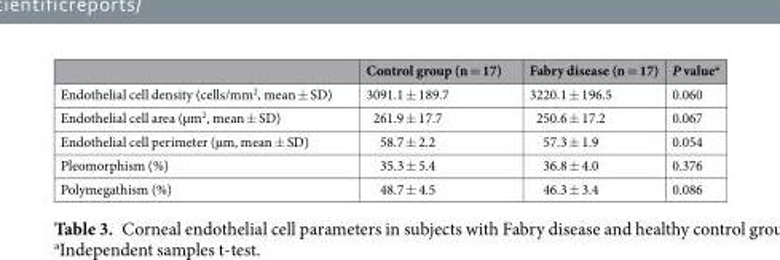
<table><thead><tr><td></td><td>Control group (n = 17)</td><td>Fabry disease (n = 17)</td><td>P value<sup>a</sup></td></tr></thead><tbody><tr><td>Endothelial cell density (cells/mm<sup>2</sup>, mean ± SD)</td><td>3091.1 ± 189.7</td><td>3220.1 ± 196.5</td><td>0.060</td></tr><tr><td>Endothelial cell area (µm<sup>2</sup>, mean ± SD)</td><td>261.9 ± 17.7</td><td>250.6 ± 17.2</td><td>0.067</td></tr><tr><td>Endothelial cell perimeter (µm, mean ± SD)</td><td>58.7 ± 2.2</td><td>57.3 ± 1.9</td><td>0.054</td></tr><tr><td>Pleomorphism (%)</td><td>35.3 ± 5.4</td><td>36.8 ± 4.0</td><td>0.376</td></tr><tr><td>Polymegathism (%)</td><td>48.7 ± 4.5</td><td>46.3 ± 3.4</td><td>0.086</td></tr></tbody></table>